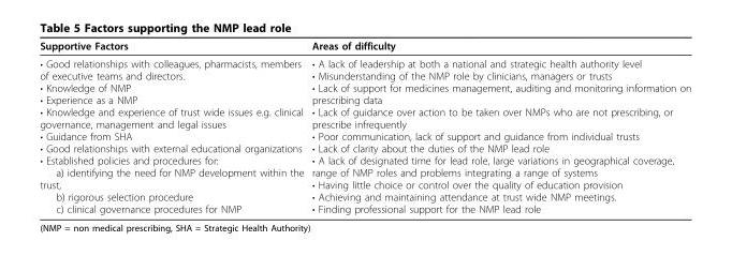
<table><thead><tr><td>Supportive Factors</td><td>Areas of difficulty</td></tr></thead><tbody><tr><td>• Good relationships with colleagues, pharmacists, members of executive teams and directors. • Knowledge of NMP • Experience as a NMP • Knowledge and experience of trust wide issues e.g. clinical governance, management and legal issues • Guidance from SHA • Good relationships with external educational organizations • Established policies and procedures for: a) identifying the need for NMP development within the trust, b) rigorous selection procedure c) clinical governance procedures for NMP</td><td>• A lack of leadership at both a national and strategic health authority level • Misunderstanding of the NMP role by clinicians, managers or trusts • Lack of support for medicines management, auditing and monitoring information on prescribing data • Lack of guidance over action to be taken over NMPs who are not prescribing, or prescribe infrequently • Poor communication, lack of support and guidance from individual trusts • Lack of clarity about the duties of the NMP lead role • A lack of designated time for lead role, large variations in geographical coverage, range of NMP roles and problems integrating a range of systems • Having little choice or control over the quality of education provision • Achieving and maintaining attendance at trust wide NMP meetings. • Finding professional support for the NMP lead role</td></tr></tbody></table>